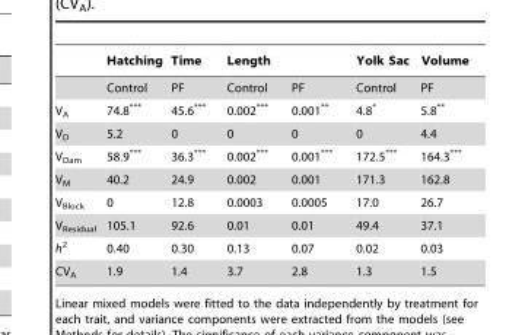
<table><thead><tr><td rowspan="2"></td><td colspan="2">Hatching Time</td><td colspan="2">Length</td><td colspan="2">Yolk Sac Volume</td></tr><tr><td>Control</td><td>PF</td><td>Control</td><td>PF</td><td>Control</td><td>PF</td></tr></thead><tbody><tr><td>V<sub>A</sub></td><td>74.8***</td><td>45.6***</td><td>0.002***</td><td>0.001**</td><td>4.8*</td><td>5.8**</td></tr><tr><td>V<sub>D</sub></td><td>5.2</td><td>0</td><td>0</td><td>0</td><td>0</td><td>4.4</td></tr><tr><td>V<sub>Dam</sub></td><td>58.9***</td><td>36.3***</td><td>0.002***</td><td>0.001***</td><td>172.5***</td><td>164.3***</td></tr><tr><td>V<sub>M</sub></td><td>40.2</td><td>24.9</td><td>0.002</td><td>0.001</td><td>171.3</td><td>162.8</td></tr><tr><td>V<sub>Block</sub></td><td>0</td><td>12.8</td><td>0.0003</td><td>0.0005</td><td>17.0</td><td>26.7</td></tr><tr><td>V<sub>Residual</sub></td><td>105.1</td><td>92.6</td><td>0.01</td><td>0.01</td><td>49.4</td><td>37.1</td></tr><tr><td>h<sup>2</sup></td><td>0.40</td><td>0.30</td><td>0.13</td><td>0.07</td><td>0.02</td><td>0.03</td></tr><tr><td>CV<sub>A</sub></td><td>1.9</td><td>1.4</td><td>3.7</td><td>2.8</td><td>1.3</td><td>1.5</td></tr></tbody></table>